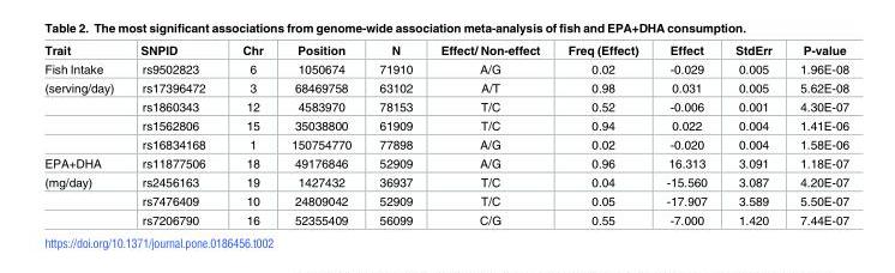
<table><thead><tr><td>Trait</td><td>SNPID</td><td>Chr</td><td>Position</td><td>N</td><td>Effect/ Non-effect</td><td>Freq (Effect)</td><td>Effect</td><td>StdErr</td><td>P-value</td></tr></thead><tbody><tr><td>Fish Intake</td><td>rs9502823</td><td>6</td><td>1050674</td><td>71910</td><td>A/G</td><td>0.02</td><td>-0.029</td><td>0.005</td><td>1.96E-08</td></tr><tr><td rowspan="4">(serving/day)</td><td>rs17396472</td><td>3</td><td>68469758</td><td>63102</td><td>A/T</td><td>0.98</td><td>0.031</td><td>0.005</td><td>5.62E-08</td></tr><tr><td>rs1860343</td><td>12</td><td>4583970</td><td>78153</td><td>T/C</td><td>0.52</td><td>-0.006</td><td>0.001</td><td>4.30E-07</td></tr><tr><td>rs1562806</td><td>15</td><td>35038800</td><td>61909</td><td>T/C</td><td>0.94</td><td>0.022</td><td>0.004</td><td>1.41E-06</td></tr><tr><td>rs16834168</td><td>1</td><td>150754770</td><td>77898</td><td>A/G</td><td>0.02</td><td>-0.020</td><td>0.004</td><td>1.58E-06</td></tr><tr><td>EPA+DHA</td><td>rs11877506</td><td>18</td><td>49176846</td><td>52909</td><td>A/G</td><td>0.96</td><td>16.313</td><td>3.091</td><td>1.18E-07</td></tr><tr><td rowspan="3">(mg/day)</td><td>rs2456163</td><td>19</td><td>1427432</td><td>36937</td><td>T/C</td><td>0.04</td><td>-15.560</td><td>3.087</td><td>4.20E-07</td></tr><tr><td>rs7476409</td><td>10</td><td>24809042</td><td>52909</td><td>T/C</td><td>0.05</td><td>-17.907</td><td>3.589</td><td>5.50E-07</td></tr><tr><td>rs7206790</td><td>16</td><td>52355409</td><td>56099</td><td>C/G</td><td>0.55</td><td>-7.000</td><td>1.420</td><td>7.44E-07</td></tr></tbody></table>